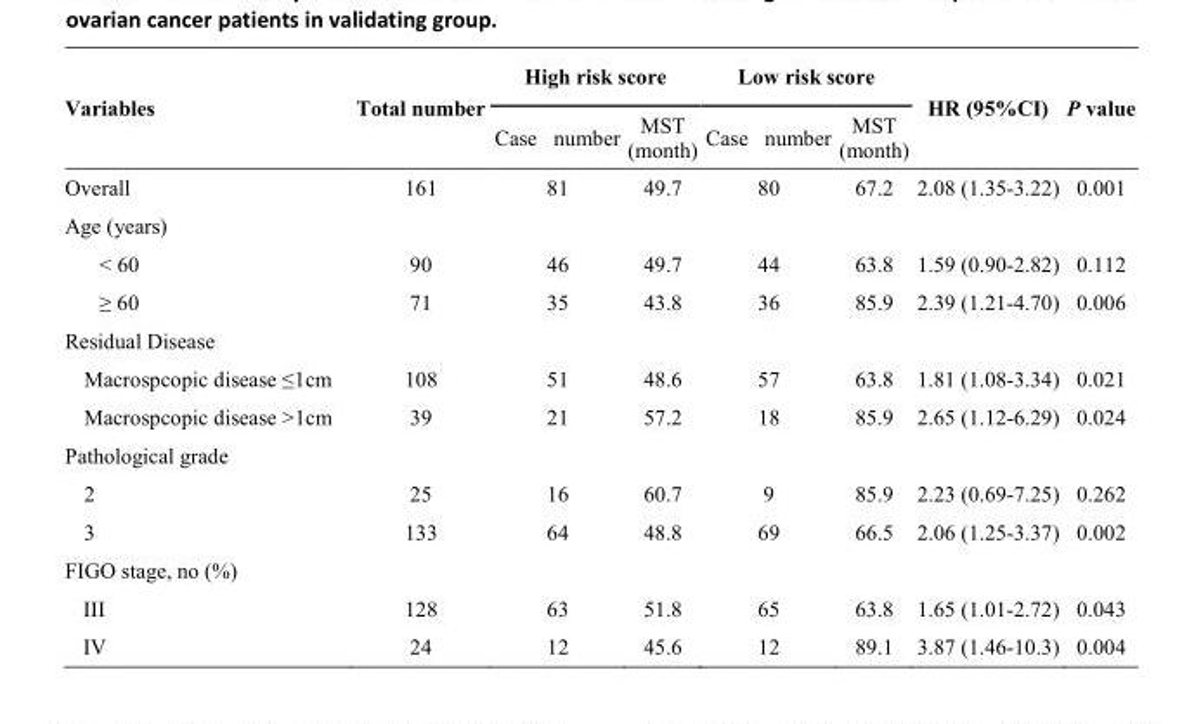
<table><thead><tr><td rowspan="2">Variables</td><td rowspan="2">Total number</td><td colspan="2">High risk score</td><td colspan="2">Low risk score</td><td rowspan="2">HR (95%CI)</td><td rowspan="2">P value</td></tr><tr><td>Case number</td><td>MST (month)</td><td>Case number</td><td>MST (month)</td></tr></thead><tbody><tr><td>Overall</td><td>161</td><td>81</td><td>49.7</td><td>80</td><td>67.2</td><td>2.08 (1.35-3.22)</td><td>0.001</td></tr><tr><td colspan="8">Age (years)</td></tr><tr><td>&lt; 60</td><td>90</td><td>46</td><td>49.7</td><td>44</td><td>63.8</td><td>1.59 (0.90-2.82)</td><td>0.112</td></tr><tr><td>≥ 60</td><td>71</td><td>35</td><td>43.8</td><td>36</td><td>85.9</td><td>2.39 (1.21-4.70)</td><td>0.006</td></tr><tr><td colspan="8">Residual Disease</td></tr><tr><td>Macrospcopic disease ≤1cm</td><td>108</td><td>51</td><td>48.6</td><td>57</td><td>63.8</td><td>1.81 (1.08-3.34)</td><td>0.021</td></tr><tr><td>Macrospcopic disease &gt;1cm</td><td>39</td><td>21</td><td>57.2</td><td>18</td><td>85.9</td><td>2.65 (1.12-6.29)</td><td>0.024</td></tr><tr><td colspan="8">Pathological grade</td></tr><tr><td>2</td><td>25</td><td>16</td><td>60.7</td><td>9</td><td>85.9</td><td>2.23 (0.69-7.25)</td><td>0.262</td></tr><tr><td>3</td><td>133</td><td>64</td><td>48.8</td><td>69</td><td>66.5</td><td>2.06 (1.25-3.37)</td><td>0.002</td></tr><tr><td colspan="8">FIGO stage, no (%)</td></tr><tr><td>III</td><td>128</td><td>63</td><td>51.8</td><td>65</td><td>63.8</td><td>1.65 (1.01-2.72)</td><td>0.043</td></tr><tr><td>IV</td><td>24</td><td>12</td><td>45.6</td><td>12</td><td>89.1</td><td>3.87 (1.46-10.3)</td><td>0.004</td></tr></tbody></table>